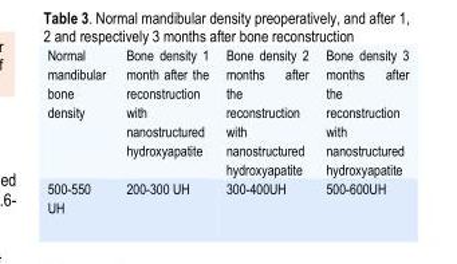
<table><tbody><tr><td>Normal mandibular bone density</td><td>Bone density 1 month after the reconstruction with nanostructured hydroxyapatite</td><td>Bone density 2 months after the reconstruction with nanostructured hydroxyapatite</td><td>Bone density 3 months after the reconstruction with nanostructured hydroxyapatite</td></tr><tr><td>500-550 UH</td><td>200-300 UH</td><td>300-400UH</td><td>500-600UH</td></tr></tbody></table>